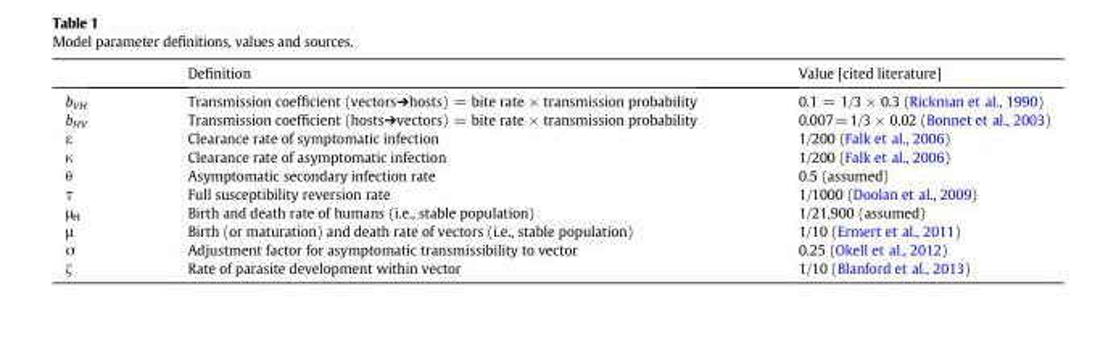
<table><thead><tr><td></td><td>Definition</td><td>Value [cited literature]</td></tr></thead><tbody><tr><td>b<sub>VH</sub></td><td>Transmission coefficient (vectors➔hosts) = bite rate × transmission probability</td><td>0.1 = 1/3 × 0.3 (Rickman et al., 1990)</td></tr><tr><td>b<sub>HV</sub></td><td>Transmission coefficient (hosts➔vectors) = bite rate × transmission probability</td><td>0.007=1/3 × 0.02 (Bonnet et al., 2003)</td></tr><tr><td>ε</td><td>Clearance rate of symptomatic infection</td><td>1/200 (Falk et al., 2006)</td></tr><tr><td>κ</td><td>Clearance rate of asymptomatic infection</td><td>1/200 (Falk et al., 2006)</td></tr><tr><td>θ</td><td>Asymptomatic secondary infection rate</td><td>0.5 (assumed)</td></tr><tr><td>τ</td><td>Full susceptibility reversion rate</td><td>1/1000 (Doolan et al., 2009)</td></tr><tr><td>μ<sub>H</sub></td><td>Birth and death rate of humans (i.e., stable population)</td><td>1/21,900 (assumed)</td></tr><tr><td>μ</td><td>Birth (or maturation) and death rate of vectors (i.e., stable population)</td><td>1/10 (Ermert et al., 2011)</td></tr><tr><td>σ</td><td>Adjustment factor for asymptomatic transmissibility to vector</td><td>0.25 (Okell et al., 2012)</td></tr><tr><td>ζ</td><td>Rate of parasite development within vector</td><td>1/10 (Blanford et al., 2013)</td></tr></tbody></table>